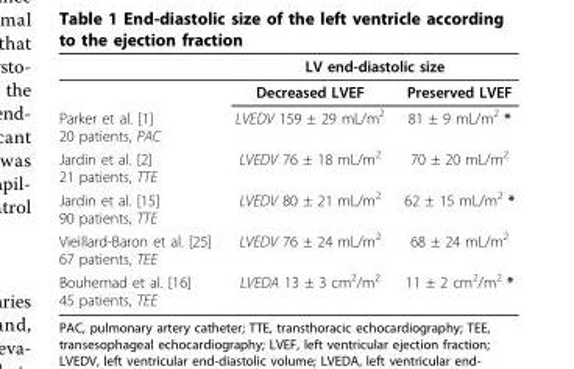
<table><thead><tr><td rowspan="2"></td><td colspan="2">LV end-diastolic size</td></tr><tr><td>Decreased LVEF</td><td>Preserved LVEF</td></tr></thead><tbody><tr><td>Parker et al. [1] 20 patients, PAC</td><td>LVEDV 159 ± 29 mL/m<sup>2</sup></td><td>81 ± 9 mL/m<sup>2</sup> *</td></tr><tr><td>Jardin et al. [2] 21 patients, TTE</td><td>LVEDV 76 ± 18 mL/m<sup>2</sup></td><td>70 ± 20 mL/m<sup>2</sup></td></tr><tr><td>Jardin et al. [15] 90 patients, TTE</td><td>LVEDV 80 ± 21 mL/m<sup>2</sup></td><td>62 ± 15 mL/m<sup>2</sup> *</td></tr><tr><td>Vieillard-Baron et al. [25] 67 patients, TEE</td><td>LVEDV 76 ± 24 mL/m<sup>2</sup></td><td>68 ± 24 mL/m<sup>2</sup></td></tr><tr><td>Bouhemad et al. [16] 45 patients, TEE</td><td>LVEDA 13 ± 3 cm<sup>2</sup>/m<sup>2</sup></td><td>11 ± 2 cm<sup>2</sup>/m<sup>2</sup> *</td></tr></tbody></table>